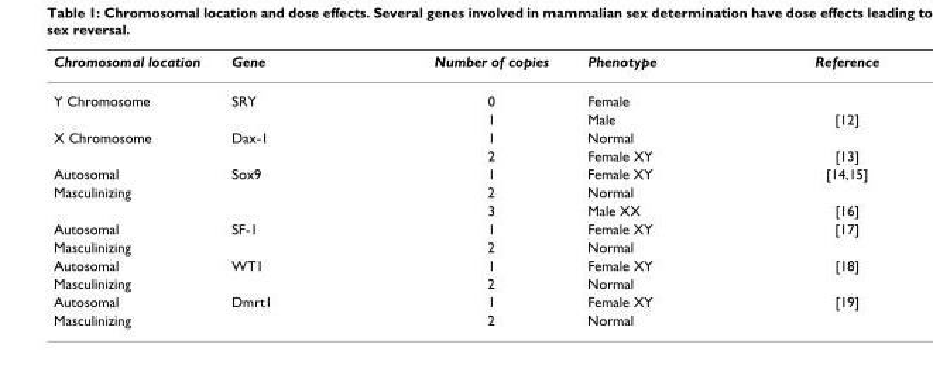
<table><thead><tr><td>Chromosomal location</td><td>Gene</td><td>Number of copies</td><td>Phenotype</td><td>Reference</td></tr></thead><tbody><tr><td rowspan="2">Y Chromosome</td><td>SRY</td><td>0</td><td>Female</td><td></td></tr><tr><td></td><td>1</td><td>Male</td><td>[12]</td></tr><tr><td rowspan="2">X Chromosome</td><td>Dax-1</td><td>1</td><td>Normal</td><td></td></tr><tr><td></td><td>2</td><td>Female XY</td><td>[13]</td></tr><tr><td>Autosomal</td><td>Sox9</td><td>1</td><td>Female XY</td><td>[14,15]</td></tr><tr><td rowspan="2">Masculinizing</td><td></td><td>2</td><td>Normal</td><td></td></tr><tr><td></td><td>3</td><td>Male XX</td><td>[16]</td></tr><tr><td>Autosomal</td><td>SF-1</td><td>1</td><td>Female XY</td><td>[17]</td></tr><tr><td>Masculinizing</td><td></td><td>2</td><td>Normal</td><td></td></tr><tr><td>Autosomal</td><td>WT1</td><td>1</td><td>Female XY</td><td>[18]</td></tr><tr><td>Masculinizing</td><td></td><td>2</td><td>Normal</td><td></td></tr><tr><td>Autosomal</td><td>Dmrt1</td><td>1</td><td>Female XY</td><td>[19]</td></tr><tr><td>Masculinizing</td><td></td><td>2</td><td>Normal</td><td></td></tr></tbody></table>